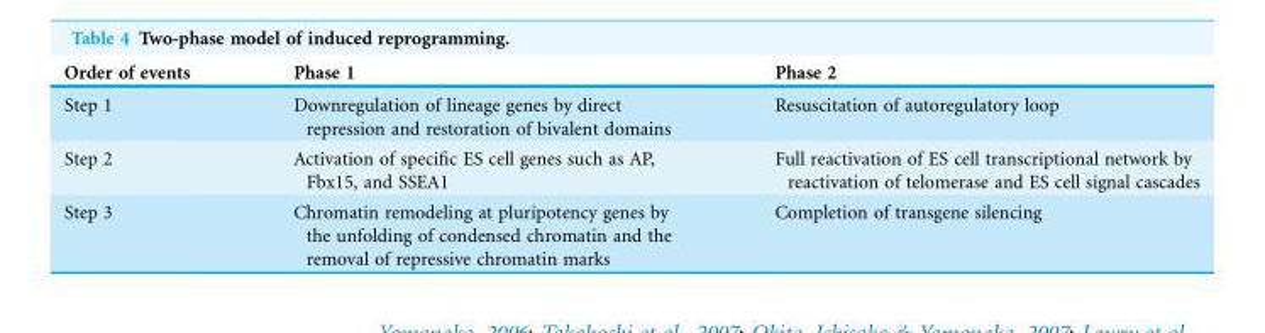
<table><thead><tr><td>Order of events</td><td>Phase 1</td><td>Phase 2</td></tr></thead><tbody><tr><td>Step 1</td><td>Downregulation of lineage genes by direct repression and restoration of bivalent domains</td><td>Resuscitation of autoregulatory loop</td></tr><tr><td>Step 2</td><td>Activation of specific ES cell genes such as AP, Fbx15, and SSEA1</td><td>Full reactivation of ES cell transcriptional network by reactivation of telomerase and ES cell signal cascades</td></tr><tr><td>Step 3</td><td>Chromatin remodeling at pluripotency genes by the unfolding of condensed chromatin and the removal of repressive chromatin marks</td><td>Completion of transgene silencing</td></tr></tbody></table>